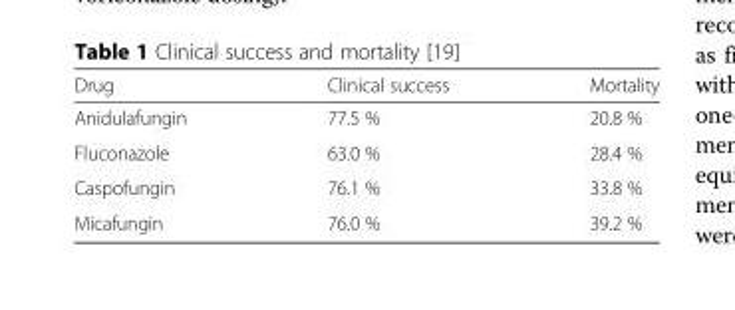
<table><thead><tr><td>Drug</td><td>Clinical success</td><td>Mortality</td></tr></thead><tbody><tr><td>Anidulafungin</td><td>77.5 %</td><td>20.8 %</td></tr><tr><td>Fluconazole</td><td>63.0 %</td><td>28.4 %</td></tr><tr><td>Caspofungin</td><td>76.1 %</td><td>33.8 %</td></tr><tr><td>Micafungin</td><td>76.0 %</td><td>39.2 %</td></tr></tbody></table>